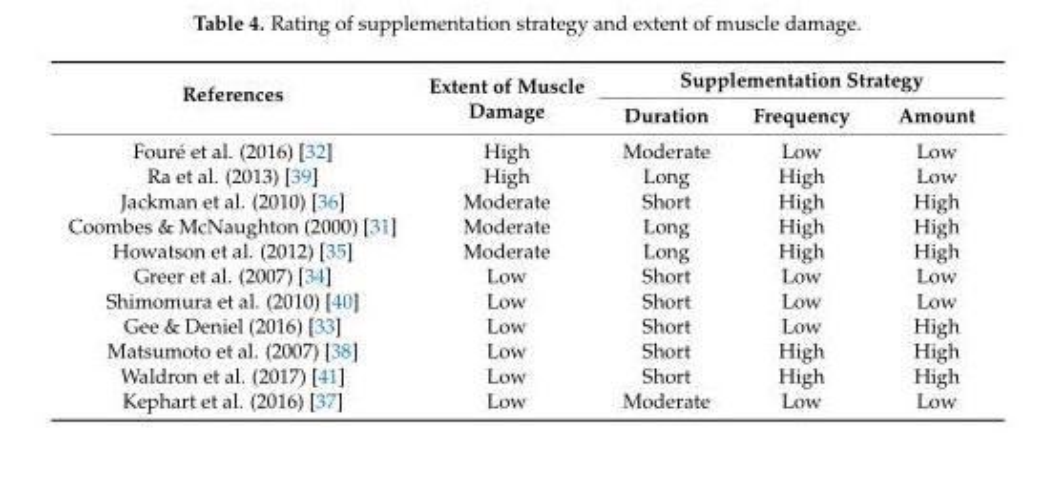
<table><thead><tr><td rowspan="2">References</td><td rowspan="2">Extent of Muscle Damage</td><td colspan="3">Supplementation Strategy</td></tr><tr><td>Duration</td><td>Frequency</td><td>Amount</td></tr></thead><tbody><tr><td>Fouré et al. (2016) [32]</td><td>High</td><td>Moderate</td><td>Low</td><td>Low</td></tr><tr><td>Ra et al. (2013) [39]</td><td>High</td><td>Long</td><td>High</td><td>Low</td></tr><tr><td>Jackman et al. (2010) [36]</td><td>Moderate</td><td>Short</td><td>High</td><td>High</td></tr><tr><td>Coombes &amp; McNaughton (2000) [31]</td><td>Moderate</td><td>Long</td><td>High</td><td>High</td></tr><tr><td>Howatson et al. (2012) [35]</td><td>Moderate</td><td>Long</td><td>High</td><td>High</td></tr><tr><td>Greer et al. (2007) [34]</td><td>Low</td><td>Short</td><td>Low</td><td>Low</td></tr><tr><td>Shimomura et al. (2010) [40]</td><td>Low</td><td>Short</td><td>Low</td><td>Low</td></tr><tr><td>Gee &amp; Deniel (2016) [33]</td><td>Low</td><td>Short</td><td>Low</td><td>High</td></tr><tr><td>Matsumoto et al. (2007) [38]</td><td>Low</td><td>Short</td><td>High</td><td>High</td></tr><tr><td>Waldron et al. (2017) [41]</td><td>Low</td><td>Short</td><td>High</td><td>High</td></tr><tr><td>Kephart et al. (2016) [37]</td><td>Low</td><td>Moderate</td><td>Low</td><td>Low</td></tr></tbody></table>